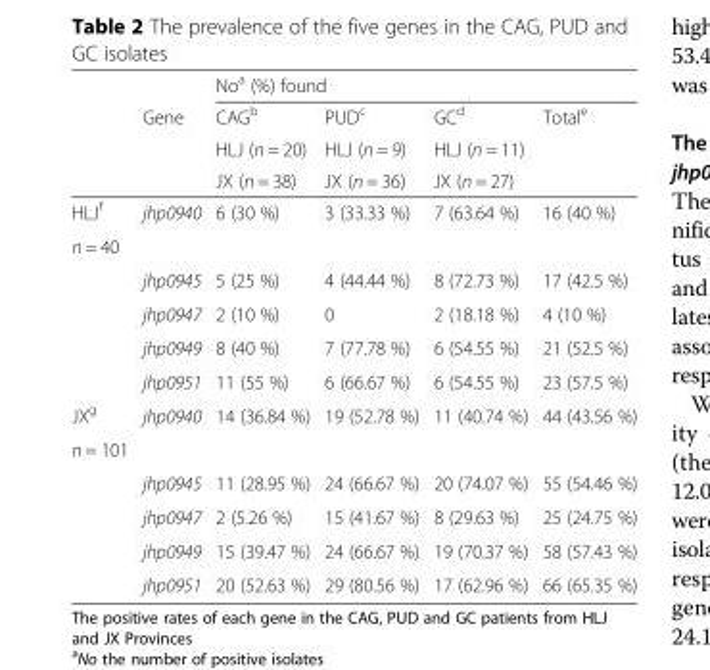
<table><thead><tr><td rowspan="4"></td><td rowspan="4">Gene</td><td colspan="4">No<sup>a</sup> (%) found</td></tr><tr><td rowspan="3">CAG<sup>b</sup> HLJ (n = 20) JX (n = 38)</td><td rowspan="3">PUD<sup>c</sup> HLJ (n = 9) JX (n = 36)</td><td rowspan="3">GC<sup>d</sup> HLJ (n = 11) JX (n = 27)</td><td rowspan="3">Total<sup>e</sup></td></tr><tr></tr><tr></tr></thead><tbody><tr><td>HLJ<sup>f</sup></td><td rowspan="2">jhp0940</td><td rowspan="2">6 (30 %)</td><td rowspan="2">3 (33.33 %)</td><td rowspan="2">7 (63.64 %)</td><td rowspan="2">16 (40 %)</td></tr><tr><td rowspan="5">n = 40</td></tr><tr><td>jhp0945</td><td>5 (25 %)</td><td>4 (44.44 %)</td><td>8 (72.73 %)</td><td>17 (42.5 %)</td></tr><tr><td>jhp0947</td><td>2 (10 %)</td><td>0</td><td>2 (18.18 %)</td><td>4 (10 %)</td></tr><tr><td>jhp0949</td><td>8 (40 %)</td><td>7 (77.78 %)</td><td>6 (54.55 %)</td><td>21 (52.5 %)</td></tr><tr><td>jhp0951</td><td>11 (55 %)</td><td>6 (66.67 %)</td><td>6 (54.55 %)</td><td>23 (57.5 %)</td></tr><tr><td>JX<sup>g</sup></td><td rowspan="2">jhp0940</td><td rowspan="2">14 (36.84 %)</td><td rowspan="2">19 (52.78 %)</td><td rowspan="2">11 (40.74 %)</td><td rowspan="2">44 (43.56 %)</td></tr><tr><td rowspan="5">n = 101</td></tr><tr><td>jhp0945</td><td>11 (28.95 %)</td><td>24 (66.67 %)</td><td>20 (74.07 %)</td><td>55 (54.46 %)</td></tr><tr><td>jhp0947</td><td>2 (5.26 %)</td><td>15 (41.67 %)</td><td>8 (29.63 %)</td><td>25 (24.75 %)</td></tr><tr><td>jhp0949</td><td>15 (39.47 %)</td><td>24 (66.67 %)</td><td>19 (70.37 %)</td><td>58 (57.43 %)</td></tr><tr><td>jhp0951</td><td>20 (52.63 %)</td><td>29 (80.56 %)</td><td>17 (62.96 %)</td><td>66 (65.35 %)</td></tr></tbody></table>